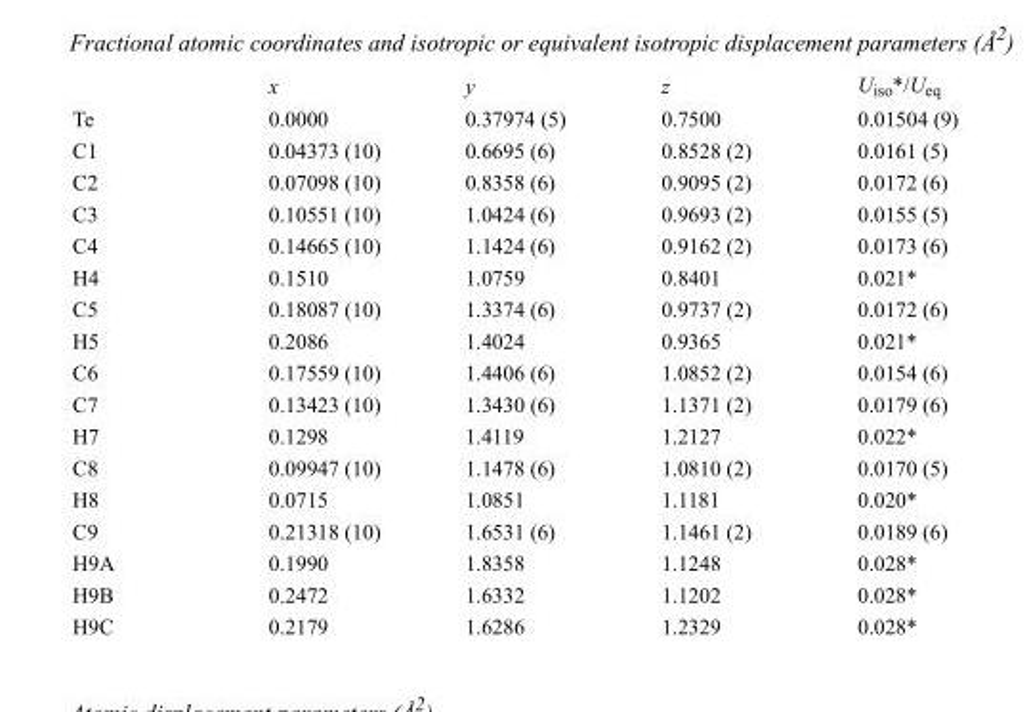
<table><thead><tr><td></td><td>x</td><td>y</td><td>z</td><td>U<sub>iso</sub>*/U<sub>eq</sub></td></tr></thead><tbody><tr><td>Te</td><td>0.0000</td><td>0.37974 (5)</td><td>0.7500</td><td>0.01504 (9)</td></tr><tr><td>C1</td><td>0.04373 (10)</td><td>0.6695 (6)</td><td>0.8528 (2)</td><td>0.0161 (5)</td></tr><tr><td>C2</td><td>0.07098 (10)</td><td>0.8358 (6)</td><td>0.9095 (2)</td><td>0.0172 (6)</td></tr><tr><td>C3</td><td>0.10551 (10)</td><td>1.0424 (6)</td><td>0.9693 (2)</td><td>0.0155 (5)</td></tr><tr><td>C4</td><td>0.14665 (10)</td><td>1.1424 (6)</td><td>0.9162 (2)</td><td>0.0173 (6)</td></tr><tr><td>H4</td><td>0.1510</td><td>1.0759</td><td>0.8401</td><td>0.021*</td></tr><tr><td>C5</td><td>0.18087 (10)</td><td>1.3374 (6)</td><td>0.9737 (2)</td><td>0.0172 (6)</td></tr><tr><td>H5</td><td>0.2086</td><td>1.4024</td><td>0.9365</td><td>0.021*</td></tr><tr><td>C6</td><td>0.17559 (10)</td><td>1.4406 (6)</td><td>1.0852 (2)</td><td>0.0154 (6)</td></tr><tr><td>C7</td><td>0.13423 (10)</td><td>1.3430 (6)</td><td>1.1371 (2)</td><td>0.0179 (6)</td></tr><tr><td>H7</td><td>0.1298</td><td>1.4119</td><td>1.2127</td><td>0.022*</td></tr><tr><td>C8</td><td>0.09947 (10)</td><td>1.1478 (6)</td><td>1.0810 (2)</td><td>0.0170 (5)</td></tr><tr><td>H8</td><td>0.0715</td><td>1.0851</td><td>1.1181</td><td>0.020*</td></tr><tr><td>C9</td><td>0.21318 (10)</td><td>1.6531 (6)</td><td>1.1461 (2)</td><td>0.0189 (6)</td></tr><tr><td>H9A</td><td>0.1990</td><td>1.8358</td><td>1.1248</td><td>0.028*</td></tr><tr><td>H9B</td><td>0.2472</td><td>1.6332</td><td>1.1202</td><td>0.028*</td></tr><tr><td>H9C</td><td>0.2179</td><td>1.6286</td><td>1.2329</td><td>0.028*</td></tr></tbody></table>